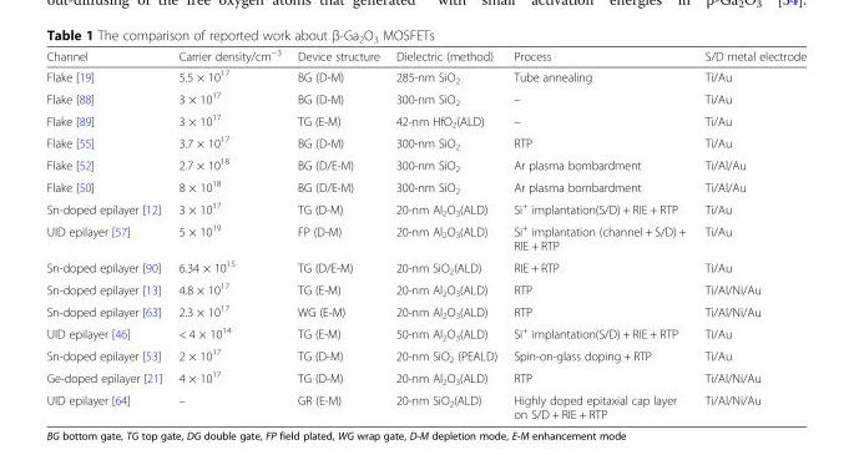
<table><thead><tr><td>Channel</td><td>Carrier density/cm<sup>−3</sup></td><td>Device structure</td><td>Dielectric (method)</td><td>Process</td><td>S/D metal electrode</td></tr></thead><tbody><tr><td>Flake [19]</td><td>5.5 × 10<sup>17</sup></td><td>BG (D-M)</td><td>285-nm SiO<sub>2</sub></td><td>Tube annealing</td><td>Ti/Au</td></tr><tr><td>Flake [88]</td><td>3 × 10<sup>17</sup></td><td>BG (D-M)</td><td>300-nm SiO<sub>2</sub></td><td>–</td><td>Ti/Au</td></tr><tr><td>Flake [89]</td><td>3 × 10<sup>17</sup></td><td>TG (E-M)</td><td>42-nm HfO<sub>2</sub>(ALD)</td><td>–</td><td>Ti/Au</td></tr><tr><td>Flake [55]</td><td>3.7 × 10<sup>17</sup></td><td>BG (D-M)</td><td>300-nm SiO<sub>2</sub></td><td>RTP</td><td>Ti/Au</td></tr><tr><td>Flake [52]</td><td>2.7 × 10<sup>18</sup></td><td>BG (D/E-M)</td><td>300-nm SiO<sub>2</sub></td><td>Ar plasma bombardment</td><td>Ti/Al/Au</td></tr><tr><td>Flake [50]</td><td>8 × 10<sup>18</sup></td><td>BG (D/E-M)</td><td>300-nm SiO<sub>2</sub></td><td>Ar plasma bombardment</td><td>Ti/Al/Au</td></tr><tr><td>Sn-doped epilayer [12]</td><td>3 × 10<sup>17</sup></td><td>TG (D-M)</td><td>20-nm Al<sub>2</sub>O<sub>3</sub>(ALD)</td><td>Si<sup>+</sup> implantation(S/D) + RIE + RTP</td><td>Ti/Au</td></tr><tr><td>UID epilayer [57]</td><td>5 × 10<sup>19</sup></td><td>FP (D-M)</td><td>20-nm Al<sub>2</sub>O<sub>3</sub>(ALD)</td><td>Si<sup>+</sup> implantation (channel + S/D) + RIE + RTP</td><td>Ti/Au</td></tr><tr><td>Sn-doped epilayer [90]</td><td>6.34 × 10<sup>15</sup></td><td>TG (D/E-M)</td><td>20-nm SiO<sub>2</sub>(ALD)</td><td>RIE + RTP</td><td>Ti/Au</td></tr><tr><td>Sn-doped epilayer [13]</td><td>4.8 × 10<sup>17</sup></td><td>TG (E-M)</td><td>20-nm Al<sub>2</sub>O<sub>3</sub>(ALD)</td><td>RTP</td><td>Ti/Al/Ni/Au</td></tr><tr><td>Sn-doped epilayer [63]</td><td>2.3 × 10<sup>17</sup></td><td>WG (E-M)</td><td>20-nm Al<sub>2</sub>O<sub>3</sub>(ALD)</td><td>RTP</td><td>Ti/Al/Ni/Au</td></tr><tr><td>UID epilayer [46]</td><td>&lt; 4 × 10<sup>14</sup></td><td>TG (E-M)</td><td>50-nm Al<sub>2</sub>O<sub>3</sub>(ALD)</td><td>Si<sup>+</sup> implantation(S/D) + RIE + RTP</td><td>Ti/Au</td></tr><tr><td>Sn-doped epilayer [53]</td><td>2 × 10<sup>17</sup></td><td>TG (D-M)</td><td>20-nm SiO<sub>2</sub> (PEALD)</td><td>Spin-on-glass doping + RTP</td><td>Ti/Au</td></tr><tr><td>Ge-doped epilayer [21]</td><td>4 × 10<sup>17</sup></td><td>TG (D-M)</td><td>20-nm Al<sub>2</sub>O<sub>3</sub>(ALD)</td><td>RTP</td><td>Ti/Al/Ni/Au</td></tr><tr><td>UID epilayer [64]</td><td>–</td><td>GR (E-M)</td><td>20-nm SiO<sub>2</sub>(ALD)</td><td>Highly doped epitaxial cap layer on S/D + RIE + RTP</td><td>Ti/Al/Ni/Au</td></tr></tbody></table>